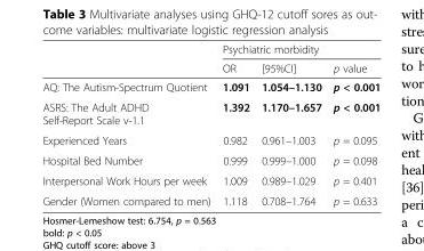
<table><thead><tr><td rowspan="2"></td><td colspan="3">Psychiatric morbidity</td></tr><tr><td>OR</td><td>[95%CI]</td><td>p value</td></tr></thead><tbody><tr><td>AQ: The Autism-Spectrum Quotient</td><td>1.091</td><td>1.054–1.130</td><td>p &lt; 0.001</td></tr><tr><td>ASRS: The Adult ADHD Self-Report Scale v-1.1</td><td>1.392</td><td>1.170–1.657</td><td>p &lt; 0.001</td></tr><tr><td>Experienced Years</td><td>0.982</td><td>0.961–1.003</td><td>p = 0.095</td></tr><tr><td>Hospital Bed Number</td><td>0.999</td><td>0.999–1.000</td><td>p = 0.098</td></tr><tr><td>Interpersonal Work Hours per week</td><td>1.009</td><td>0.989–1.029</td><td>p = 0.401</td></tr><tr><td>Gender (Women compared to men)</td><td>1.118</td><td>0.708–1.764</td><td>p = 0.633</td></tr></tbody></table>